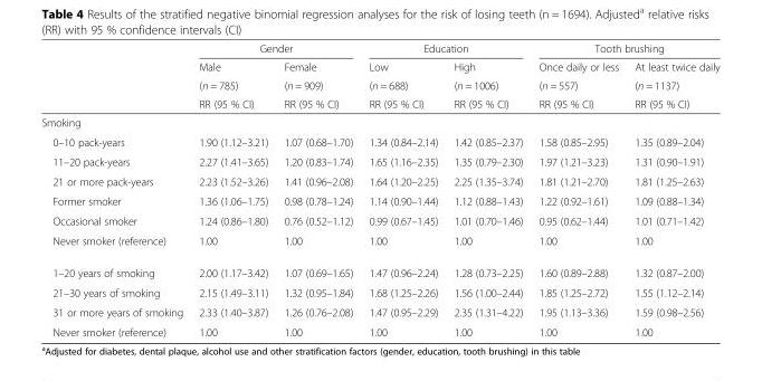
<table><thead><tr><td rowspan="4"></td><td colspan="2">Gender</td><td colspan="2">Education</td><td colspan="2">Tooth brushing</td></tr><tr><td rowspan="3">Male (n = 785) RR (95 % CI)</td><td rowspan="3">Female (n = 909) RR (95 % CI)</td><td rowspan="3">Low (n = 688) RR (95 % CI)</td><td rowspan="3">High (n = 1006) RR (95 % CI)</td><td rowspan="3">Once daily or less (n = 557) RR (95 % CI)</td><td rowspan="3">At least twice daily (n = 1137) RR (95 % CI)</td></tr><tr></tr><tr></tr></thead><tbody><tr><td colspan="7">Smoking</td></tr><tr><td>0–10 pack-years</td><td>1.90 (1.12–3.21)</td><td>1.07 (0.68–1.70)</td><td>1.34 (0.84–2.14)</td><td>1.42 (0.85–2.37)</td><td>1.58 (0.85–2.95)</td><td>1.35 (0.89–2.04)</td></tr><tr><td>11–20 pack-years</td><td>2.27 (1.41–3.65)</td><td>1.20 (0.83–1.74)</td><td>1.65 (1.16–2.35)</td><td>1.35 (0.79–2.30)</td><td>1.97 (1.21–3.23)</td><td>1.31 (0.90–1.91)</td></tr><tr><td>21 or more pack-years</td><td>2.23 (1.52–3.26)</td><td>1.41 (0.96–2.08)</td><td>1.64 (1.20–2.25)</td><td>2.25 (1.35–3.74)</td><td>1.81 (1.21–2.70)</td><td>1.81 (1.25–2.63)</td></tr><tr><td>Former smoker</td><td>1.36 (1.06–1.75)</td><td>0.98 (0.78–1.24)</td><td>1.14 (0.90–1.44)</td><td>1.12 (0.88–1.43)</td><td>1.22 (0.92–1.61)</td><td>1.09 (0.88–1.34)</td></tr><tr><td>Occasional smoker</td><td>1.24 (0.86–1.80)</td><td>0.76 (0.52–1.12)</td><td>0.99 (0.67–1.45)</td><td>1.01 (0.70–1.46)</td><td>0.95 (0.62–1.44)</td><td>1.01 (0.71–1.42)</td></tr><tr><td>Never smoker (reference)</td><td>1.00</td><td>1.00</td><td>1.00</td><td>1.00</td><td>1.00</td><td>1.00</td></tr><tr><td>1–20 years of smoking</td><td>2.00 (1.17–3.42)</td><td>1.07 (0.69–1.65)</td><td>1.47 (0.96–2.24)</td><td>1.28 (0.73–2.25)</td><td>1.60 (0.89–2.88)</td><td>1.32 (0.87–2.00)</td></tr><tr><td>21–30 years of smoking</td><td>2.15 (1.49–3.11)</td><td>1.32 (0.95–1.84)</td><td>1.68 (1.25–2.26)</td><td>1.56 (1.00–2.44)</td><td>1.85 (1.25–2.72)</td><td>1.55 (1.12–2.14)</td></tr><tr><td>31 or more years of smoking</td><td>2.33 (1.40–3.87)</td><td>1.26 (0.76–2.08)</td><td>1.47 (0.95–2.29)</td><td>2.35 (1.31–4.22)</td><td>1.95 (1.13–3.36)</td><td>1.59 (0.98–2.56)</td></tr><tr><td>Never smoker (reference)</td><td>1.00</td><td>1.00</td><td>1.00</td><td>1.00</td><td>1.00</td><td>1.00</td></tr></tbody></table>